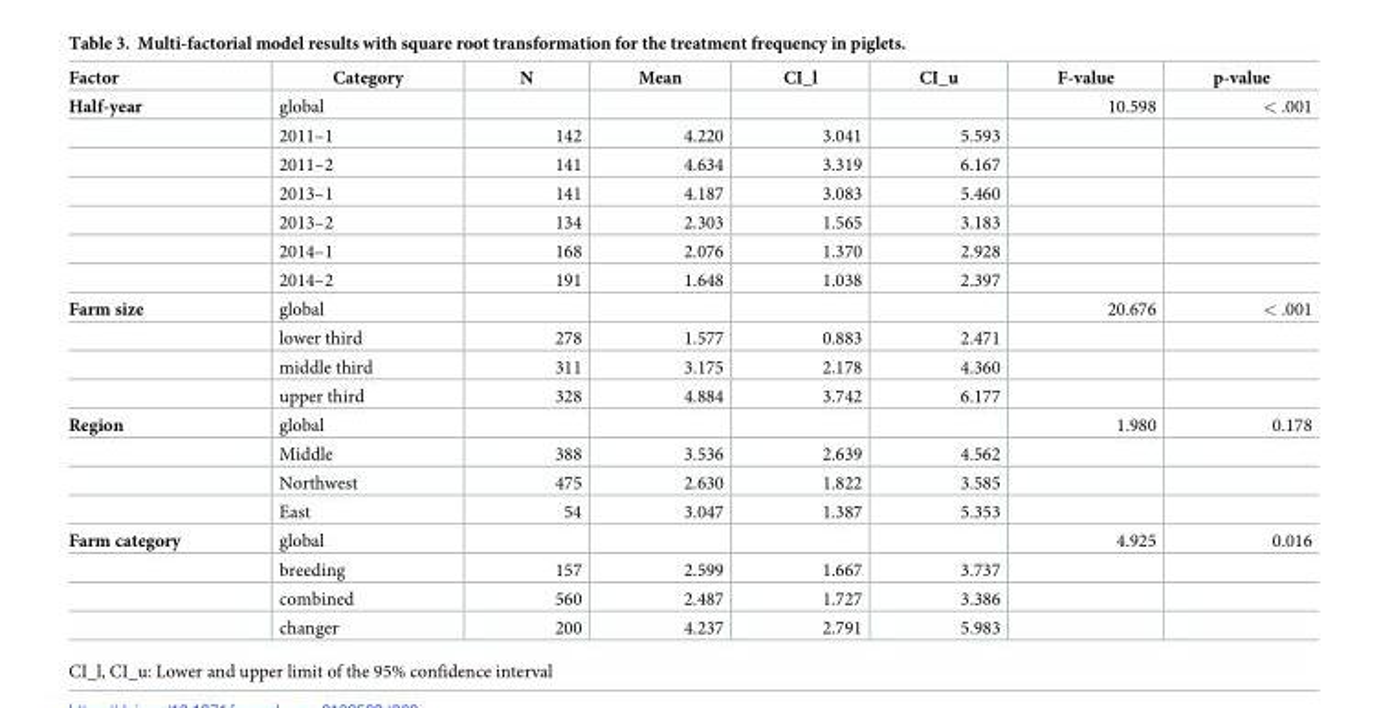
<table><thead><tr><td>Factor</td><td>Category</td><td>N</td><td>Mean</td><td>CI_l</td><td>CI_u</td><td>F-value</td><td>p-value</td></tr></thead><tbody><tr><td rowspan="7">Half-year</td><td>global</td><td></td><td></td><td></td><td></td><td>10.598</td><td>&lt; .001</td></tr><tr><td>2011–1</td><td>142</td><td>4.220</td><td>3.041</td><td>5.593</td><td></td><td></td></tr><tr><td>2011–2</td><td>141</td><td>4.634</td><td>3.319</td><td>6.167</td><td></td><td></td></tr><tr><td>2013–1</td><td>141</td><td>4.187</td><td>3.083</td><td>5.460</td><td></td><td></td></tr><tr><td>2013–2</td><td>134</td><td>2.303</td><td>1.565</td><td>3.183</td><td></td><td></td></tr><tr><td>2014–1</td><td>168</td><td>2.076</td><td>1.370</td><td>2.928</td><td></td><td></td></tr><tr><td>2014–2</td><td>191</td><td>1.648</td><td>1.038</td><td>2.397</td><td></td><td></td></tr><tr><td rowspan="4">Farm size</td><td>global</td><td></td><td></td><td></td><td></td><td>20.676</td><td>&lt; .001</td></tr><tr><td>lower third</td><td>278</td><td>1.577</td><td>0.883</td><td>2.471</td><td></td><td></td></tr><tr><td>middle third</td><td>311</td><td>3.175</td><td>2.178</td><td>4.360</td><td></td><td></td></tr><tr><td>upper third</td><td>328</td><td>4.884</td><td>3.742</td><td>6.177</td><td></td><td></td></tr><tr><td rowspan="4">Region</td><td>global</td><td></td><td></td><td></td><td></td><td>1.980</td><td>0.178</td></tr><tr><td>Middle</td><td>388</td><td>3.536</td><td>2.639</td><td>4.562</td><td></td><td></td></tr><tr><td>Northwest</td><td>475</td><td>2.630</td><td>1.822</td><td>3.585</td><td></td><td></td></tr><tr><td>East</td><td>54</td><td>3.047</td><td>1.387</td><td>5.353</td><td></td><td></td></tr><tr><td rowspan="4">Farm category</td><td>global</td><td></td><td></td><td></td><td></td><td>4.925</td><td>0.016</td></tr><tr><td>breeding</td><td>157</td><td>2.599</td><td>1.667</td><td>3.737</td><td></td><td></td></tr><tr><td>combined</td><td>560</td><td>2.487</td><td>1.727</td><td>3.386</td><td></td><td></td></tr><tr><td>changer</td><td>200</td><td>4.237</td><td>2.791</td><td>5.983</td><td></td><td></td></tr></tbody></table>